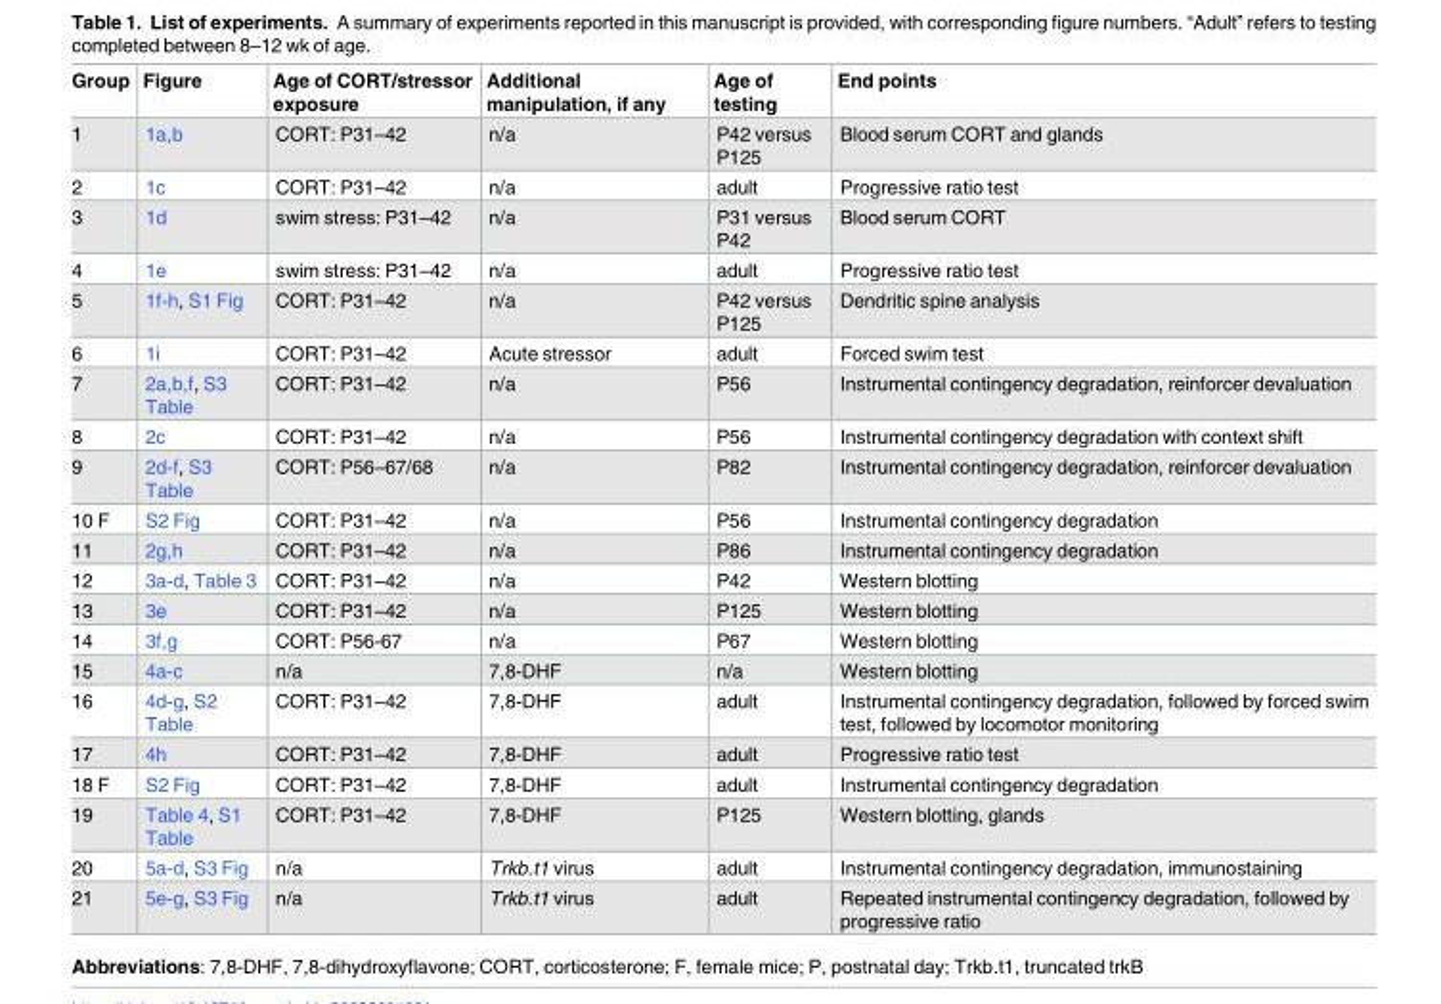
<table><thead><tr><td>Group</td><td>Figure</td><td>Age of CORT/stressor exposure</td><td>Additional manipulation, if any</td><td>Age of testing</td><td>End points</td></tr></thead><tbody><tr><td>1</td><td>1a,b</td><td>CORT: P31–42</td><td>n/a</td><td>P42 versus P125</td><td>Blood serum CORT and glands</td></tr><tr><td>2</td><td>1c</td><td>CORT: P31–42</td><td>n/a</td><td>adult</td><td>Progressive ratio test</td></tr><tr><td>3</td><td>1d</td><td>swim stress: P31–42</td><td>n/a</td><td>P31 versus P42</td><td>Blood serum CORT</td></tr><tr><td>4</td><td>1e</td><td>swim stress: P31–42</td><td>n/a</td><td>adult</td><td>Progressive ratio test</td></tr><tr><td>5</td><td>1f-h, S1 Fig</td><td>CORT: P31–42</td><td>n/a</td><td>P42 versus P125</td><td>Dendritic spine analysis</td></tr><tr><td>6</td><td>1i</td><td>CORT: P31–42</td><td>Acute stressor</td><td>adult</td><td>Forced swim test</td></tr><tr><td>7</td><td>2a,b,f, S3 Table</td><td>CORT: P31–42</td><td>n/a</td><td>P56</td><td>Instrumental contingency degradation, reinforcer devaluation</td></tr><tr><td>8</td><td>2c</td><td>CORT: P31–42</td><td>n/a</td><td>P56</td><td>Instrumental contingency degradation with context shift</td></tr><tr><td>9</td><td>2d-f, S3 Table</td><td>CORT: P56–67/68</td><td>n/a</td><td>P82</td><td>Instrumental contingency degradation, reinforcer devaluation</td></tr><tr><td>10 F</td><td>S2 Fig</td><td>CORT: P31–42</td><td>n/a</td><td>P56</td><td>Instrumental contingency degradation</td></tr><tr><td>11</td><td>2g,h</td><td>CORT: P31–42</td><td>n/a</td><td>P86</td><td>Instrumental contingency degradation</td></tr><tr><td>12</td><td>3a-d, Table 3</td><td>CORT: P31–42</td><td>n/a</td><td>P42</td><td>Western blotting</td></tr><tr><td>13</td><td>3e</td><td>CORT: P31–42</td><td>n/a</td><td>P125</td><td>Western blotting</td></tr><tr><td>14</td><td>3f,g</td><td>CORT: P56-67</td><td>n/a</td><td>P67</td><td>Western blotting</td></tr><tr><td>15</td><td>4a-c</td><td>n/a</td><td>7,8-DHF</td><td>n/a</td><td>Western blotting</td></tr><tr><td>16</td><td>4d-g, S2 Table</td><td>CORT: P31–42</td><td>7,8-DHF</td><td>adult</td><td>Instrumental contingency degradation, followed by forced swim test, followed by locomotor monitoring</td></tr><tr><td>17</td><td>4h</td><td>CORT: P31–42</td><td>7,8-DHF</td><td>adult</td><td>Progressive ratio test</td></tr><tr><td>18 F</td><td>S2 Fig</td><td>CORT: P31–42</td><td>7,8-DHF</td><td>adult</td><td>Instrumental contingency degradation</td></tr><tr><td>19</td><td>Table 4, S1 Table</td><td>CORT: P31–42</td><td>7,8-DHF</td><td>P125</td><td>Western blotting, glands</td></tr><tr><td>20</td><td>5a-d, S3 Fig</td><td>n/a</td><td>Trkb.t1 virus</td><td>adult</td><td>Instrumental contingency degradation, immunostaining</td></tr><tr><td>21</td><td>5e-g, S3 Fig</td><td>n/a</td><td>Trkb.t1 virus</td><td>adult</td><td>Repeated instrumental contingency degradation, followed by progressive ratio</td></tr></tbody></table>